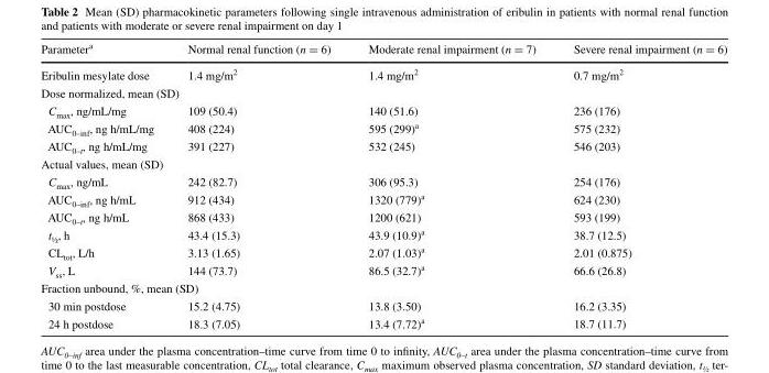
<table><thead><tr><td>Parameter<sup>a</sup></td><td>Normal renal function (n = 6)</td><td>Moderate renal impairment (n = 7)</td><td>Severe renal impairment (n = 6)</td></tr></thead><tbody><tr><td>Eribulin mesylate dose</td><td>1.4 mg/m<sup>2</sup></td><td>1.4 mg/m<sup>2</sup></td><td>0.7 mg/m<sup>2</sup></td></tr><tr><td colspan="4">Dose normalized, mean (SD)</td></tr><tr><td>C<sub>max</sub>, ng/mL/mg</td><td>109 (50.4)</td><td>140 (51.6)</td><td>236 (176)</td></tr><tr><td>AUC<sub>0–inf</sub>, ng h/mL/mg</td><td>408 (224)</td><td>595 (299)<sup>a</sup></td><td>575 (232)</td></tr><tr><td>AUC<sub>0–t</sub>, ng h/mL/mg</td><td>391 (227)</td><td>532 (245)</td><td>546 (203)</td></tr><tr><td colspan="4">Actual values, mean (SD)</td></tr><tr><td>C<sub>max</sub>, ng/mL</td><td>242 (82.7)</td><td>306 (95.3)</td><td>254 (176)</td></tr><tr><td>AUC<sub>0–inf</sub>, ng h/mL</td><td>912 (434)</td><td>1320 (779)<sup>a</sup></td><td>624 (230)</td></tr><tr><td>AUC<sub>0–t</sub>, ng h/mL</td><td>868 (433)</td><td>1200 (621)</td><td>593 (199)</td></tr><tr><td>t<sub>½</sub>, h</td><td>43.4 (15.3)</td><td>43.9 (10.9)<sup>a</sup></td><td>38.7 (12.5)</td></tr><tr><td>CL<sub>tot</sub>, L/h</td><td>3.13 (1.65)</td><td>2.07 (1.03)<sup>a</sup></td><td>2.01 (0.875)</td></tr><tr><td>V<sub>ss</sub>, L</td><td>144 (73.7)</td><td>86.5 (32.7)<sup>a</sup></td><td>66.6 (26.8)</td></tr><tr><td colspan="4">Fraction unbound, %, mean (SD)</td></tr><tr><td>30 min postdose</td><td>15.2 (4.75)</td><td>13.8 (3.50)</td><td>16.2 (3.35)</td></tr><tr><td>24 h postdose</td><td>18.3 (7.05)</td><td>13.4 (7.72)<sup>a</sup></td><td>18.7 (11.7)</td></tr></tbody></table>